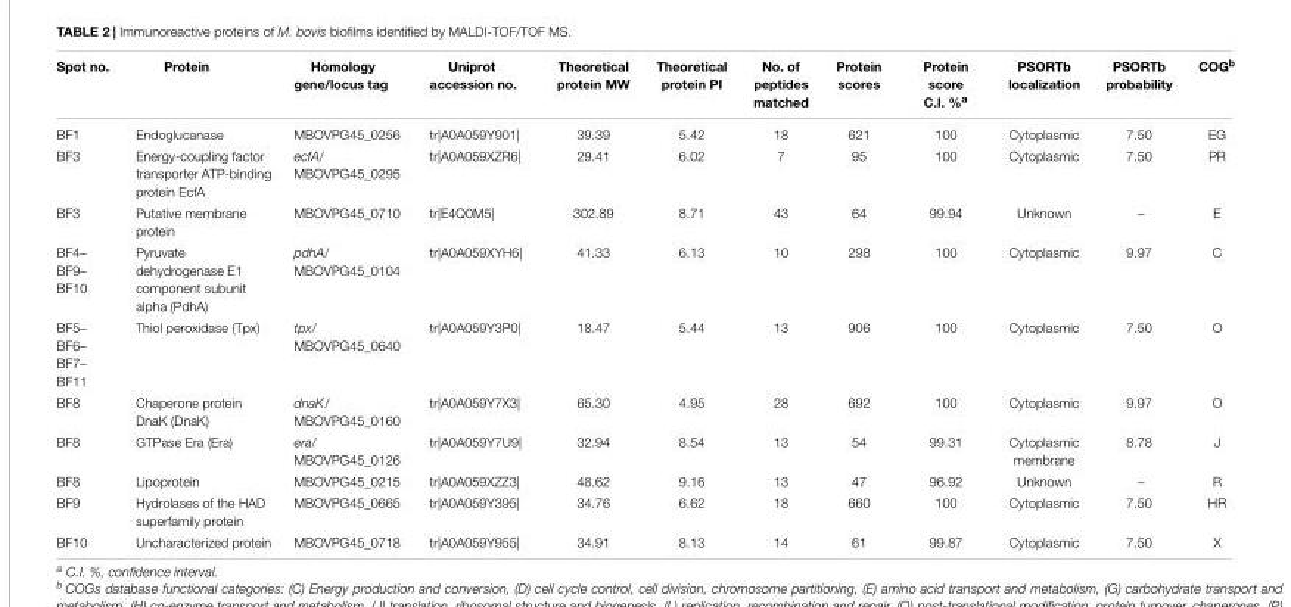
<table><thead><tr><td>Spot no.</td><td>Protein</td><td>Homology gene/locus tag</td><td>Uniprot accession no.</td><td>Theoretical protein MW</td><td>Theoretical protein PI</td><td>No. of peptides matched</td><td>Protein scores</td><td>Protein score C.I. %a</td><td>PSORTb localization</td><td>PSORTb probability</td><td>COG<sup>b</sup></td></tr></thead><tbody><tr><td>BF1</td><td>Endoglucanase</td><td>MBOVPG45_0256</td><td>tr|A0A059Y901|</td><td>39.39</td><td>5.42</td><td>18</td><td>621</td><td>100</td><td>Cytoplasmic</td><td>7.50</td><td>EG</td></tr><tr><td>BF3</td><td>Energy-coupling factor transporter ATP-binding protein EcfA</td><td>ecfA/ MBOVPG45_0295</td><td>tr|A0A059XZR6|</td><td>29.41</td><td>6.02</td><td>7</td><td>95</td><td>100</td><td>Cytoplasmic</td><td>7.50</td><td>PR</td></tr><tr><td>BF3</td><td>Putative membrane protein</td><td>MBOVPG45_0710</td><td>tr|E4Q0M5|</td><td>302.89</td><td>8.71</td><td>43</td><td>64</td><td>99.94</td><td>Unknown</td><td>–</td><td>E</td></tr><tr><td>BF4– BF9– BF10</td><td>Pyruvate dehydrogenase E1 component subunit alpha (PdhA)</td><td>pdhA/ MBOVPG45_0104</td><td>tr|A0A059XYH6|</td><td>41.33</td><td>6.13</td><td>10</td><td>298</td><td>100</td><td>Cytoplasmic</td><td>9.97</td><td>C</td></tr><tr><td>BF5– BF6– BF7– BF11</td><td>Thiol peroxidase (Tpx)</td><td>tpx/ MBOVPG45_0640</td><td>tr|A0A059Y3P0|</td><td>18.47</td><td>5.44</td><td>13</td><td>906</td><td>100</td><td>Cytoplasmic</td><td>7.50</td><td>O</td></tr><tr><td>BF8</td><td>Chaperone protein DnaK (DnaK)</td><td>dnaK/ MBOVPG45_0160</td><td>tr|A0A059Y7X3|</td><td>65.30</td><td>4.95</td><td>28</td><td>692</td><td>100</td><td>Cytoplasmic</td><td>9.97</td><td>O</td></tr><tr><td>BF8</td><td>GTPase Era (Era)</td><td>era/ MBOVPG45_0126</td><td>tr|A0A059Y7U9|</td><td>32.94</td><td>8.54</td><td>13</td><td>54</td><td>99.31</td><td>Cytoplasmic membrane</td><td>8.78</td><td>J</td></tr><tr><td>BF8</td><td>Lipoprotein</td><td>MBOVPG45_0215</td><td>tr|A0A059XZZ3|</td><td>48.62</td><td>9.16</td><td>13</td><td>47</td><td>96.92</td><td>Unknown</td><td>–</td><td>R</td></tr><tr><td>BF9</td><td>Hydrolases of the HAD superfamily protein</td><td>MBOVPG45_0665</td><td>tr|A0A059Y395|</td><td>34.76</td><td>6.62</td><td>18</td><td>660</td><td>100</td><td>Cytoplasmic</td><td>7.50</td><td>HR</td></tr><tr><td>BF10</td><td>Uncharacterized protein</td><td>MBOVPG45_0718</td><td>tr|A0A059Y955|</td><td>34.91</td><td>8.13</td><td>14</td><td>61</td><td>99.87</td><td>Cytoplasmic</td><td>7.50</td><td>X</td></tr></tbody></table>